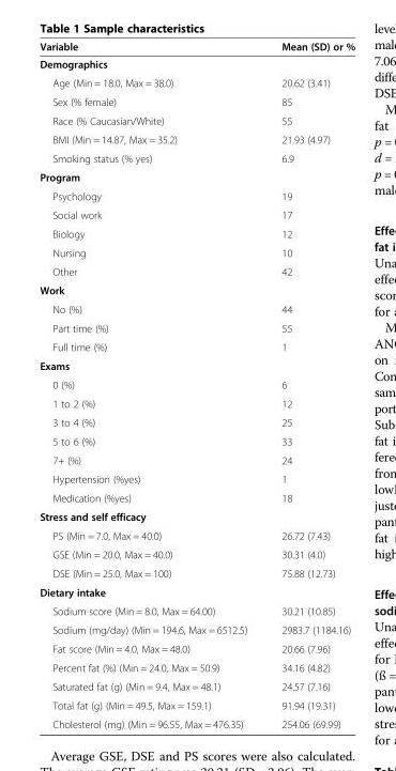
<table><thead><tr><td>Variable</td><td>Mean (SD) or %</td></tr></thead><tbody><tr><td colspan="2">Demographics</td></tr><tr><td>Age (Min = 18.0, Max = 38.0)</td><td>20.62 (3.41)</td></tr><tr><td>Sex (% female)</td><td>85</td></tr><tr><td>Race (% Caucasian/White)</td><td>55</td></tr><tr><td>BMI (Min = 14.87, Max = 35.2)</td><td>21.93 (4.97)</td></tr><tr><td>Smoking status (% yes)</td><td>6.9</td></tr><tr><td colspan="2">Program</td></tr><tr><td>Psychology</td><td>19</td></tr><tr><td>Social work</td><td>17</td></tr><tr><td>Biology</td><td>12</td></tr><tr><td>Nursing</td><td>10</td></tr><tr><td>Other</td><td>42</td></tr><tr><td colspan="2">Work</td></tr><tr><td>No (%)</td><td>44</td></tr><tr><td>Part time (%)</td><td>55</td></tr><tr><td>Full time (%)</td><td>1</td></tr><tr><td colspan="2">Exams</td></tr><tr><td>0 (%)</td><td>6</td></tr><tr><td>1 to 2 (%)</td><td>12</td></tr><tr><td>3 to 4 (%)</td><td>25</td></tr><tr><td>5 to 6 (%)</td><td>33</td></tr><tr><td>7+ (%)</td><td>24</td></tr><tr><td>Hypertension (%yes)</td><td>1</td></tr><tr><td>Medication (%yes)</td><td>18</td></tr><tr><td colspan="2">Stress and self efficacy</td></tr><tr><td>PS (Min = 7.0, Max = 40.0)</td><td>26.72 (7.43)</td></tr><tr><td>GSE (Min = 20.0, Max = 40.0)</td><td>30.31 (4.0)</td></tr><tr><td>DSE (Min = 25.0, Max = 100)</td><td>75.88 (12.73)</td></tr><tr><td colspan="2">Dietary intake</td></tr><tr><td>Sodium score (Min = 8.0, Max = 64.00)</td><td>30.21 (10.85)</td></tr><tr><td>Sodium (mg/day) (Min = 194.6, Max = 6512.5)</td><td>2983.7 (1184.16)</td></tr><tr><td>Fat score (Min = 4.0, Max = 48.0)</td><td>20.66 (7.96)</td></tr><tr><td>Percent fat (%) (Min = 24.0, Max = 50.9)</td><td>34.16 (4.82)</td></tr><tr><td>Saturated fat (g) (Min = 9.4, Max = 48.1)</td><td>24.57 (7.16)</td></tr><tr><td>Total fat (g) (Min = 49.5, Max = 159.1)</td><td>91.94 (19.31)</td></tr><tr><td>Cholesterol (mg) (Min = 96.55, Max = 476.35)</td><td>254.06 (69.99)</td></tr></tbody></table>